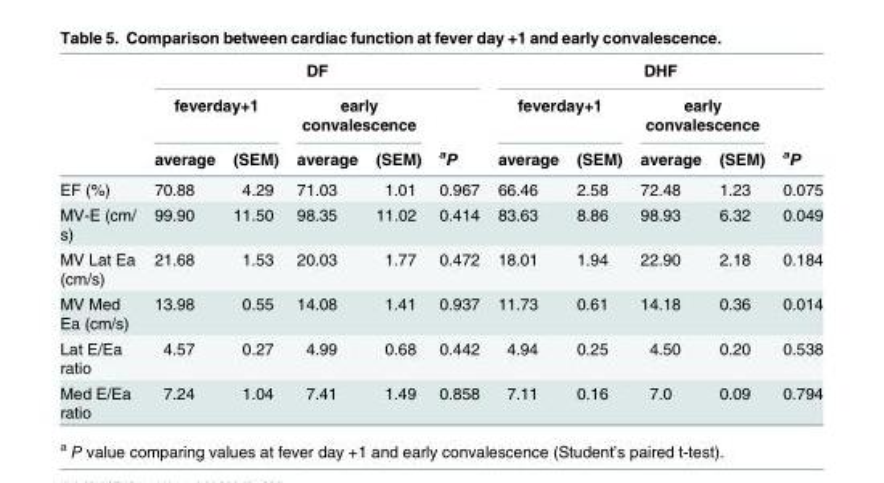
<table><thead><tr><td rowspan="3"></td><td colspan="5">DF</td><td colspan="5">DHF</td></tr><tr><td colspan="2">feverday+1</td><td colspan="2">early convalescence</td><td rowspan="2"><sup>a</sup>P</td><td colspan="2">feverday+1</td><td colspan="2">early convalescence</td><td rowspan="2"><sup>a</sup>P</td></tr><tr><td>average</td><td>(SEM)</td><td>average</td><td>(SEM)</td><td>average</td><td>(SEM)</td><td>average</td><td>(SEM)</td></tr></thead><tbody><tr><td>EF (%)</td><td>70.88</td><td>4.29</td><td>71.03</td><td>1.01</td><td>0.967</td><td>66.46</td><td>2.58</td><td>72.48</td><td>1.23</td><td>0.075</td></tr><tr><td>MV-E (cm/ s)</td><td>99.90</td><td>11.50</td><td>98.35</td><td>11.02</td><td>0.414</td><td>83.63</td><td>8.86</td><td>98.93</td><td>6.32</td><td>0.049</td></tr><tr><td>MV Lat Ea (cm/s)</td><td>21.68</td><td>1.53</td><td>20.03</td><td>1.77</td><td>0.472</td><td>18.01</td><td>1.94</td><td>22.90</td><td>2.18</td><td>0.184</td></tr><tr><td>MV Med Ea (cm/s)</td><td>13.98</td><td>0.55</td><td>14.08</td><td>1.41</td><td>0.937</td><td>11.73</td><td>0.61</td><td>14.18</td><td>0.36</td><td>0.014</td></tr><tr><td>Lat E/Ea ratio</td><td>4.57</td><td>0.27</td><td>4.99</td><td>0.68</td><td>0.442</td><td>4.94</td><td>0.25</td><td>4.50</td><td>0.20</td><td>0.538</td></tr><tr><td>Med E/Ea ratio</td><td>7.24</td><td>1.04</td><td>7.41</td><td>1.49</td><td>0.858</td><td>7.11</td><td>0.16</td><td>7.0</td><td>0.09</td><td>0.794</td></tr></tbody></table>